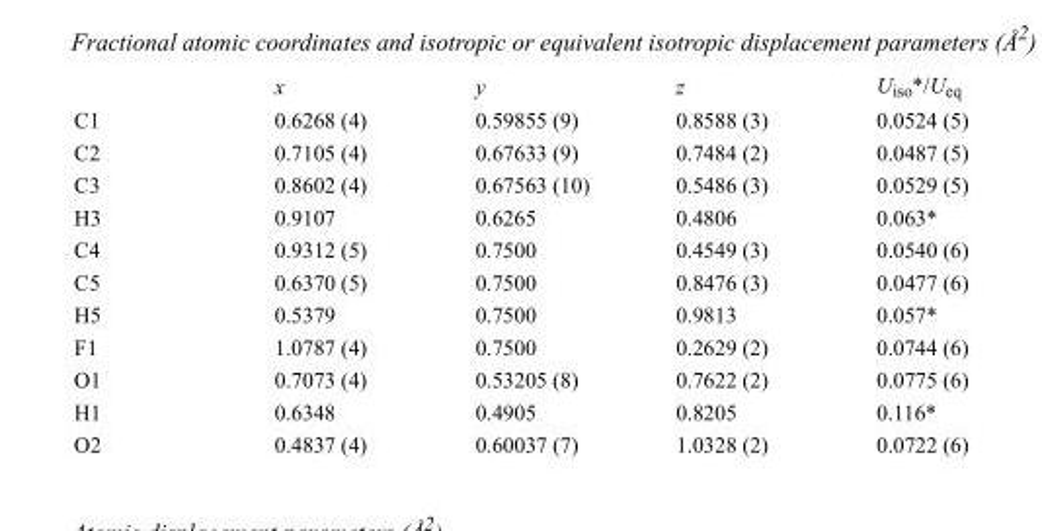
<table><thead><tr><td></td><td>x</td><td>y</td><td>z</td><td>U<sub>iso</sub>*/U<sub>eq</sub></td></tr></thead><tbody><tr><td>C1</td><td>0.6268 (4)</td><td>0.59855 (9)</td><td>0.8588 (3)</td><td>0.0524 (5)</td></tr><tr><td>C2</td><td>0.7105 (4)</td><td>0.67633 (9)</td><td>0.7484 (2)</td><td>0.0487 (5)</td></tr><tr><td>C3</td><td>0.8602 (4)</td><td>0.67563 (10)</td><td>0.5486 (3)</td><td>0.0529 (5)</td></tr><tr><td>H3</td><td>0.9107</td><td>0.6265</td><td>0.4806</td><td>0.063*</td></tr><tr><td>C4</td><td>0.9312 (5)</td><td>0.7500</td><td>0.4549 (3)</td><td>0.0540 (6)</td></tr><tr><td>C5</td><td>0.6370 (5)</td><td>0.7500</td><td>0.8476 (3)</td><td>0.0477 (6)</td></tr><tr><td>H5</td><td>0.5379</td><td>0.7500</td><td>0.9813</td><td>0.057*</td></tr><tr><td>F1</td><td>1.0787 (4)</td><td>0.7500</td><td>0.2629 (2)</td><td>0.0744 (6)</td></tr><tr><td>O1</td><td>0.7073 (4)</td><td>0.53205 (8)</td><td>0.7622 (2)</td><td>0.0775 (6)</td></tr><tr><td>H1</td><td>0.6348</td><td>0.4905</td><td>0.8205</td><td>0.116*</td></tr><tr><td>O2</td><td>0.4837 (4)</td><td>0.60037 (7)</td><td>1.0328 (2)</td><td>0.0722 (6)</td></tr></tbody></table>